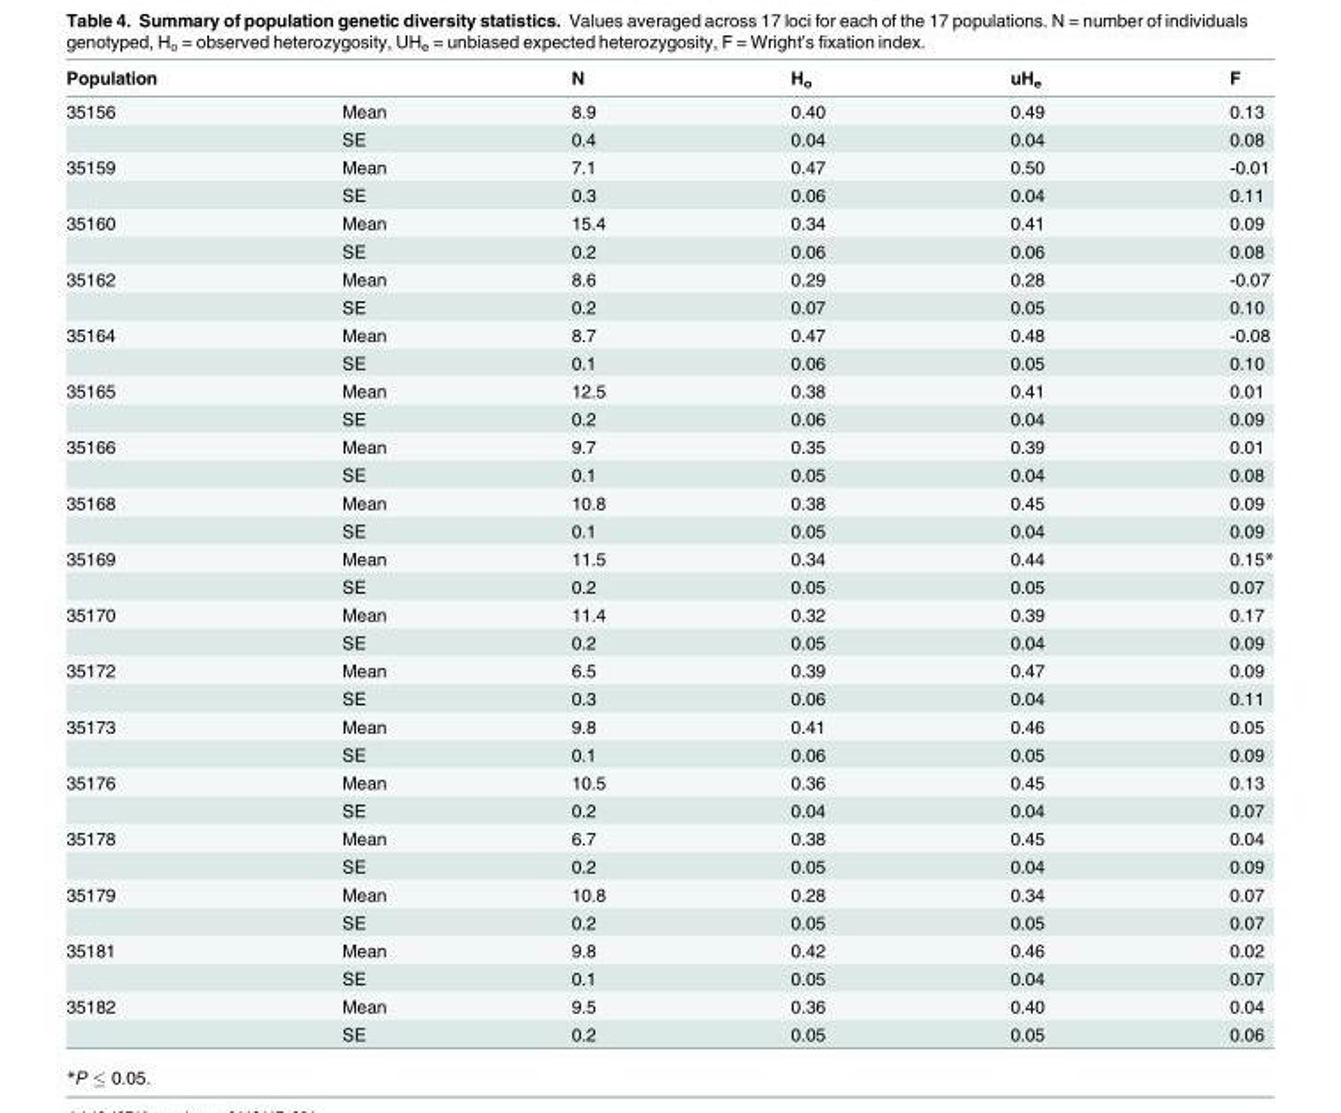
<table><thead><tr><td>Population</td><td></td><td>N</td><td>H<sub>o</sub></td><td>uH<sub>e</sub></td><td>F</td></tr></thead><tbody><tr><td rowspan="2">35156</td><td>Mean</td><td>8.9</td><td>0.40</td><td>0.49</td><td>0.13</td></tr><tr><td>SE</td><td>0.4</td><td>0.04</td><td>0.04</td><td>0.08</td></tr><tr><td rowspan="2">35159</td><td>Mean</td><td>7.1</td><td>0.47</td><td>0.50</td><td>-0.01</td></tr><tr><td>SE</td><td>0.3</td><td>0.06</td><td>0.04</td><td>0.11</td></tr><tr><td rowspan="2">35160</td><td>Mean</td><td>15.4</td><td>0.34</td><td>0.41</td><td>0.09</td></tr><tr><td>SE</td><td>0.2</td><td>0.06</td><td>0.06</td><td>0.08</td></tr><tr><td rowspan="2">35162</td><td>Mean</td><td>8.6</td><td>0.29</td><td>0.28</td><td>-0.07</td></tr><tr><td>SE</td><td>0.2</td><td>0.07</td><td>0.05</td><td>0.10</td></tr><tr><td rowspan="2">35164</td><td>Mean</td><td>8.7</td><td>0.47</td><td>0.48</td><td>-0.08</td></tr><tr><td>SE</td><td>0.1</td><td>0.06</td><td>0.05</td><td>0.10</td></tr><tr><td rowspan="2">35165</td><td>Mean</td><td>12.5</td><td>0.38</td><td>0.41</td><td>0.01</td></tr><tr><td>SE</td><td>0.2</td><td>0.06</td><td>0.04</td><td>0.09</td></tr><tr><td rowspan="2">35166</td><td>Mean</td><td>9.7</td><td>0.35</td><td>0.39</td><td>0.01</td></tr><tr><td>SE</td><td>0.1</td><td>0.05</td><td>0.04</td><td>0.08</td></tr><tr><td rowspan="2">35168</td><td>Mean</td><td>10.8</td><td>0.38</td><td>0.45</td><td>0.09</td></tr><tr><td>SE</td><td>0.1</td><td>0.05</td><td>0.04</td><td>0.09</td></tr><tr><td rowspan="2">35169</td><td>Mean</td><td>11.5</td><td>0.34</td><td>0.44</td><td>0.15*</td></tr><tr><td>SE</td><td>0.2</td><td>0.05</td><td>0.05</td><td>0.07</td></tr><tr><td rowspan="2">35170</td><td>Mean</td><td>11.4</td><td>0.32</td><td>0.39</td><td>0.17</td></tr><tr><td>SE</td><td>0.2</td><td>0.05</td><td>0.04</td><td>0.09</td></tr><tr><td rowspan="2">35172</td><td>Mean</td><td>6.5</td><td>0.39</td><td>0.47</td><td>0.09</td></tr><tr><td>SE</td><td>0.3</td><td>0.06</td><td>0.04</td><td>0.11</td></tr><tr><td rowspan="2">35173</td><td>Mean</td><td>9.8</td><td>0.41</td><td>0.46</td><td>0.05</td></tr><tr><td>SE</td><td>0.1</td><td>0.06</td><td>0.05</td><td>0.09</td></tr><tr><td rowspan="2">35176</td><td>Mean</td><td>10.5</td><td>0.36</td><td>0.45</td><td>0.13</td></tr><tr><td>SE</td><td>0.2</td><td>0.04</td><td>0.04</td><td>0.07</td></tr><tr><td rowspan="2">35178</td><td>Mean</td><td>6.7</td><td>0.38</td><td>0.45</td><td>0.04</td></tr><tr><td>SE</td><td>0.2</td><td>0.05</td><td>0.04</td><td>0.09</td></tr><tr><td rowspan="2">35179</td><td>Mean</td><td>10.8</td><td>0.28</td><td>0.34</td><td>0.07</td></tr><tr><td>SE</td><td>0.2</td><td>0.05</td><td>0.05</td><td>0.07</td></tr><tr><td rowspan="2">35181</td><td>Mean</td><td>9.8</td><td>0.42</td><td>0.46</td><td>0.02</td></tr><tr><td>SE</td><td>0.1</td><td>0.05</td><td>0.04</td><td>0.07</td></tr><tr><td rowspan="2">35182</td><td>Mean</td><td>9.5</td><td>0.36</td><td>0.40</td><td>0.04</td></tr><tr><td>SE</td><td>0.2</td><td>0.05</td><td>0.05</td><td>0.06</td></tr></tbody></table>